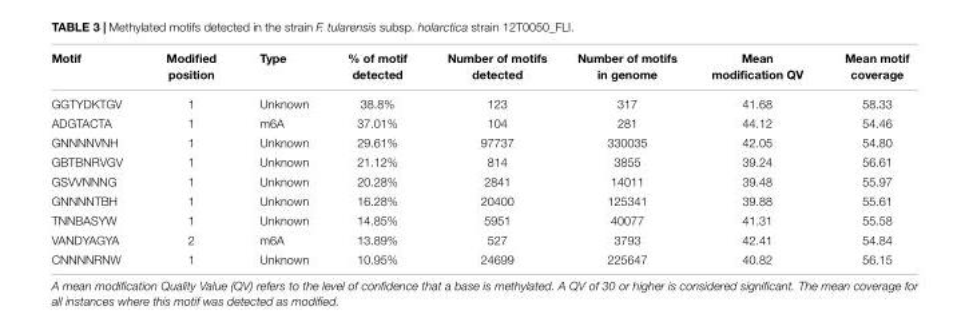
<table><thead><tr><td>Motif</td><td>Modified position</td><td>Type</td><td>% of motif detected</td><td>Number of motifs detected</td><td>Number of motifs in genome</td><td>Mean modification QV</td><td>Mean motif coverage</td></tr></thead><tbody><tr><td>GGTYDKTGV</td><td>1</td><td>Unknown</td><td>38.8%</td><td>123</td><td>317</td><td>41.68</td><td>58.33</td></tr><tr><td>ADGTACTA</td><td>1</td><td>m6A</td><td>37.01%</td><td>104</td><td>281</td><td>44.12</td><td>54.46</td></tr><tr><td>GNNNNVNH</td><td>1</td><td>Unknown</td><td>29.61%</td><td>97737</td><td>330035</td><td>42.05</td><td>54.80</td></tr><tr><td>GBTBNRVGV</td><td>1</td><td>Unknown</td><td>21.12%</td><td>814</td><td>3855</td><td>39.24</td><td>56.61</td></tr><tr><td>GSVVNNNG</td><td>1</td><td>Unknown</td><td>20.28%</td><td>2841</td><td>14011</td><td>39.48</td><td>55.97</td></tr><tr><td>GNNNNTBH</td><td>1</td><td>Unknown</td><td>16.28%</td><td>20400</td><td>125341</td><td>39.88</td><td>55.61</td></tr><tr><td>TNNBASYW</td><td>1</td><td>Unknown</td><td>14.85%</td><td>5951</td><td>40077</td><td>41.31</td><td>55.58</td></tr><tr><td>VANDYAGYA</td><td>2</td><td>m6A</td><td>13.89%</td><td>527</td><td>3793</td><td>42.41</td><td>54.84</td></tr><tr><td>CNNNNRNW</td><td>1</td><td>Unknown</td><td>10.95%</td><td>24699</td><td>225647</td><td>40.82</td><td>56.15</td></tr></tbody></table>